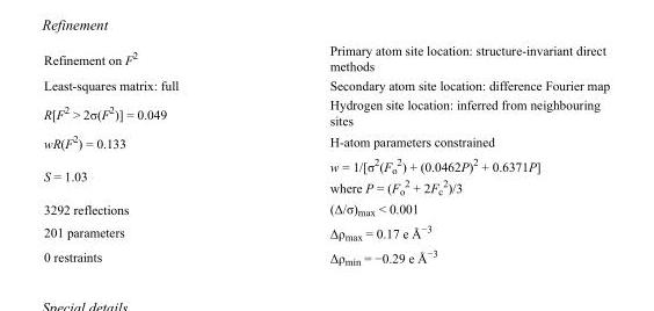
<table><tbody><tr><td>Refinement on F<sup>2</sup></td><td>Primary atom site location: structure-invariant direct methods</td></tr><tr><td>Least-squares matrix: full</td><td>Secondary atom site location: difference Fourier map</td></tr><tr><td>R[F<sup>2</sup> &gt; 2σ(F<sup>2</sup>)] = 0.049</td><td>Hydrogen site location: inferred from neighbouring sites</td></tr><tr><td>wR(F<sup>2</sup>) = 0.133</td><td>H-atom parameters constrained</td></tr><tr><td>S = 1.03</td><td>w = 1/[σ<sup>2</sup>(F<sub>o</sub> <sup>2</sup>) + (0.0462P)<sup>2</sup> + 0.6371P] where P = (F<sub>o</sub> <sup>2</sup> + 2F<sub>c</sub> <sup>2</sup>)/3</td></tr><tr><td>3292 reflections</td><td>(Δ/σ)<sub>max</sub> &lt; 0.001</td></tr><tr><td>201 parameters</td><td>Δρ<sub>max</sub> = 0.17 e Å<sup>−3</sup></td></tr><tr><td>0 restraints</td><td>Δρ<sub>min</sub> = −0.29 e Å<sup>−3</sup></td></tr></tbody></table>